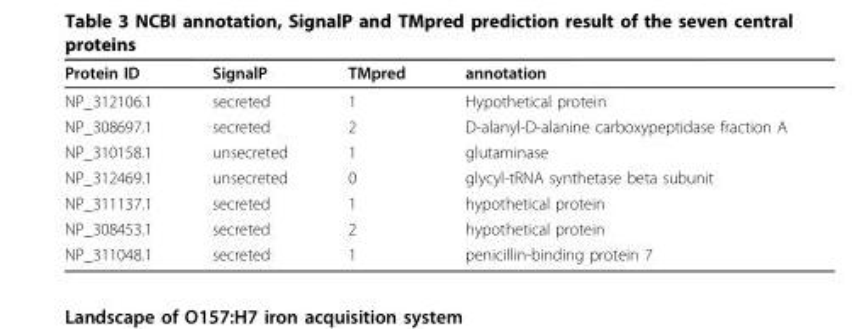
<table><thead><tr><td>Protein ID</td><td>SignalP</td><td>TMpred</td><td>annotation</td></tr></thead><tbody><tr><td>NP_312106.1</td><td>secreted</td><td>1</td><td>Hypothetical protein</td></tr><tr><td>NP_308697.1</td><td>secreted</td><td>2</td><td>D-alanyl-D-alanine carboxypeptidase fraction A</td></tr><tr><td>NP_310158.1</td><td>unsecreted</td><td>1</td><td>glutaminase</td></tr><tr><td>NP_312469.1</td><td>unsecreted</td><td>0</td><td>glycyl-tRNA synthetase beta subunit</td></tr><tr><td>NP_311137.1</td><td>secreted</td><td>1</td><td>hypothetical protein</td></tr><tr><td>NP_308453.1</td><td>secreted</td><td>2</td><td>hypothetical protein</td></tr><tr><td>NP_311048.1</td><td>secreted</td><td>1</td><td>penicillin-binding protein 7</td></tr></tbody></table>